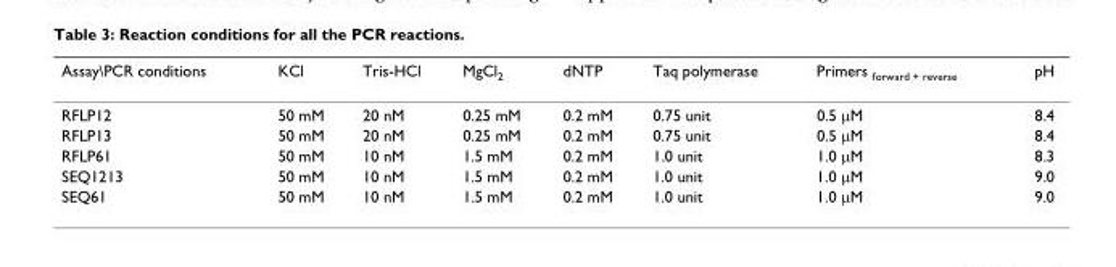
<table><thead><tr><td>Assay\PCR conditions</td><td>KCl</td><td>Tris-HCl</td><td>MgCl<sub>2</sub></td><td>dNTP</td><td>Taq polymerase</td><td>Primers <sub>forward + reverse</sub></td><td>pH</td></tr></thead><tbody><tr><td>RFLP12</td><td>50 mM</td><td>20 nM</td><td>0.25 mM</td><td>0.2 mM</td><td>0.75 unit</td><td>0.5 μM</td><td>8.4</td></tr><tr><td>RFLP13</td><td>50 mM</td><td>20 nM</td><td>0.25 mM</td><td>0.2 mM</td><td>0.75 unit</td><td>0.5 μM</td><td>8.4</td></tr><tr><td>RFLP61</td><td>50 mM</td><td>10 nM</td><td>1.5 mM</td><td>0.2 mM</td><td>1.0 unit</td><td>1.0 μM</td><td>8.3</td></tr><tr><td>SEQ1213</td><td>50 mM</td><td>10 nM</td><td>1.5 mM</td><td>0.2 mM</td><td>1.0 unit</td><td>1.0 μM</td><td>9.0</td></tr><tr><td>SEQ61</td><td>50 mM</td><td>10 nM</td><td>1.5 mM</td><td>0.2 mM</td><td>1.0 unit</td><td>1.0 μM</td><td>9.0</td></tr></tbody></table>